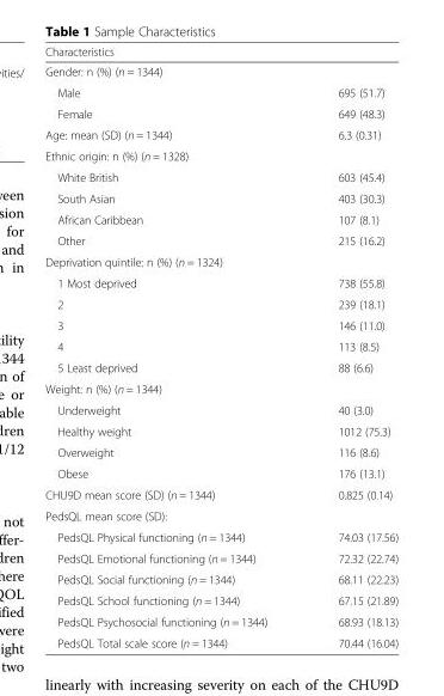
<table><thead><tr><td>Characteristics</td><td></td></tr></thead><tbody><tr><td colspan="2">Gender: n (%) (n = 1344)</td></tr><tr><td>Male</td><td>695 (51.7)</td></tr><tr><td>Female</td><td>649 (48.3)</td></tr><tr><td>Age: mean (SD) (n = 1344)</td><td>6.3 (0.31)</td></tr><tr><td colspan="2">Ethnic origin: n (%) (n = 1328)</td></tr><tr><td>White British</td><td>603 (45.4)</td></tr><tr><td>South Asian</td><td>403 (30.3)</td></tr><tr><td>African Caribbean</td><td>107 (8.1)</td></tr><tr><td>Other</td><td>215 (16.2)</td></tr><tr><td colspan="2">Deprivation quintile: n (%) (n = 1324)</td></tr><tr><td>1 Most deprived</td><td>738 (55.8)</td></tr><tr><td>2</td><td>239 (18.1)</td></tr><tr><td>3</td><td>146 (11.0)</td></tr><tr><td>4</td><td>113 (8.5)</td></tr><tr><td>5 Least deprived</td><td>88 (6.6)</td></tr><tr><td colspan="2">Weight: n (%) (n = 1344)</td></tr><tr><td>Underweight</td><td>40 (3.0)</td></tr><tr><td>Healthy weight</td><td>1012 (75.3)</td></tr><tr><td>Overweight</td><td>116 (8.6)</td></tr><tr><td>Obese</td><td>176 (13.1)</td></tr><tr><td>CHU9D mean score (SD) (n = 1344)</td><td>0.825 (0.14)</td></tr><tr><td colspan="2">PedsQL mean score (SD):</td></tr><tr><td>PedsQL Physical functioning (n = 1344)</td><td>74.03 (17.56)</td></tr><tr><td>PedsQL Emotional functioning (n = 1344)</td><td>72.32 (22.74)</td></tr><tr><td>PedsQL Social functioning (n = 1344)</td><td>68.11 (22.23)</td></tr><tr><td>PedsQL School functioning (n = 1344)</td><td>67.15 (21.89)</td></tr><tr><td>PedsQL Psychosocial functioning (n = 1344)</td><td>68.93 (18.13)</td></tr><tr><td>PedsQL Total scale score (n = 1344)</td><td>70.44 (16.04)</td></tr></tbody></table>